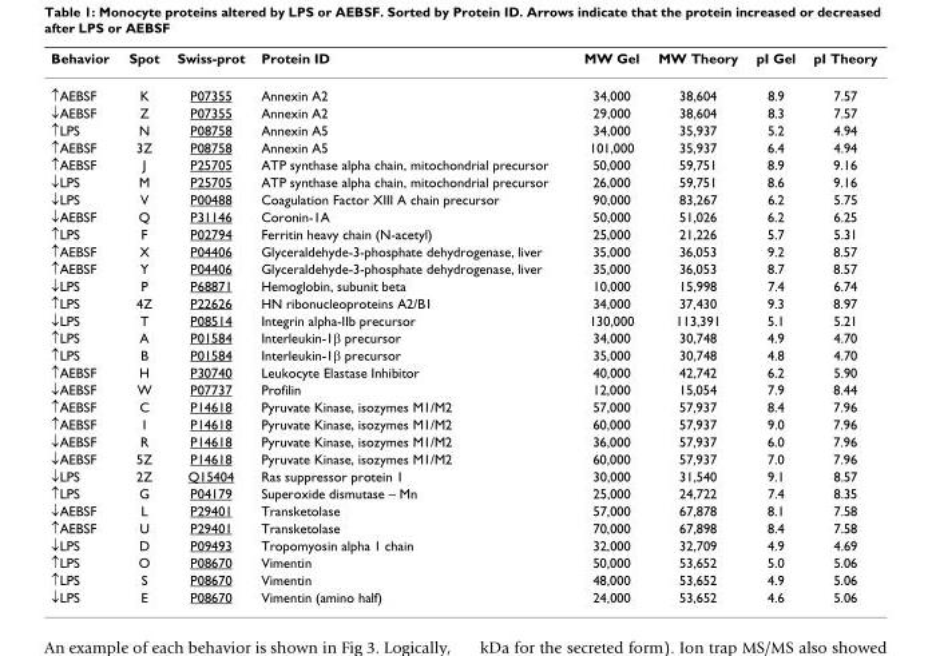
<table><thead><tr><td>Behavior</td><td>Spot</td><td>Swiss-prot</td><td>Protein ID</td><td>MW Gel</td><td>MW Theory</td><td>pI Gel</td><td>pI Theory</td></tr></thead><tbody><tr><td>↑AEBSF</td><td>K</td><td>P07355</td><td>Annexin A2</td><td>34,000</td><td>38,604</td><td>8.9</td><td>7.57</td></tr><tr><td>↓AEBSF</td><td>Z</td><td>P07355</td><td>Annexin A2</td><td>29,000</td><td>38,604</td><td>8.3</td><td>7.57</td></tr><tr><td>↑LPS</td><td>N</td><td>P08758</td><td>Annexin A5</td><td>34,000</td><td>35,937</td><td>5.2</td><td>4.94</td></tr><tr><td>↑AEBSF</td><td>3Z</td><td>P08758</td><td>Annexin A5</td><td>101,000</td><td>35,937</td><td>6.4</td><td>4.94</td></tr><tr><td>↑AEBSF</td><td>J</td><td>P25705</td><td>ATP synthase alpha chain, mitochondrial precursor</td><td>50,000</td><td>59,751</td><td>8.9</td><td>9.16</td></tr><tr><td>↓LPS</td><td>M</td><td>P25705</td><td>ATP synthase alpha chain, mitochondrial precursor</td><td>26,000</td><td>59,751</td><td>8.6</td><td>9.16</td></tr><tr><td>↓LPS</td><td>V</td><td>P00488</td><td>Coagulation Factor XIII A chain precursor</td><td>90,000</td><td>83,267</td><td>6.2</td><td>5.75</td></tr><tr><td>↓AEBSF</td><td>Q</td><td>P31146</td><td>Coronin-1A</td><td>50,000</td><td>51,026</td><td>6.2</td><td>6.25</td></tr><tr><td>↑LPS</td><td>F</td><td>P02794</td><td>Ferritin heavy chain (N-acetyl)</td><td>25,000</td><td>21,226</td><td>5.7</td><td>5.31</td></tr><tr><td>↑AEBSF</td><td>X</td><td>P04406</td><td>Glyceraldehyde-3-phosphate dehydrogenase, liver</td><td>35,000</td><td>36,053</td><td>9.2</td><td>8.57</td></tr><tr><td>↑AEBSF</td><td>Y</td><td>P04406</td><td>Glyceraldehyde-3-phosphate dehydrogenase, liver</td><td>35,000</td><td>36,053</td><td>8.7</td><td>8.57</td></tr><tr><td>↓LPS</td><td>P</td><td>P68871</td><td>Hemoglobin, subunit beta</td><td>10,000</td><td>15,998</td><td>7.4</td><td>6.74</td></tr><tr><td>↑LPS</td><td>4Z</td><td>P22626</td><td>HN ribonucleoproteins A2/B1</td><td>34,000</td><td>37,430</td><td>9.3</td><td>8.97</td></tr><tr><td>↓LPS</td><td>T</td><td>P08514</td><td>Integrin alpha-IIb precursor</td><td>130,000</td><td>113,391</td><td>5.1</td><td>5.21</td></tr><tr><td>↑LPS</td><td>A</td><td>P01584</td><td>Interleukin-1β precursor</td><td>34,000</td><td>30,748</td><td>4.9</td><td>4.70</td></tr><tr><td>↑LPS</td><td>B</td><td>P01584</td><td>Interleukin-1β precursor</td><td>35,000</td><td>30,748</td><td>4.8</td><td>4.70</td></tr><tr><td>↑AEBSF</td><td>H</td><td>P30740</td><td>Leukocyte Elastase Inhibitor</td><td>40,000</td><td>42,742</td><td>6.2</td><td>5.90</td></tr><tr><td>↓AEBSF</td><td>W</td><td>P07737</td><td>Profilin</td><td>12,000</td><td>15,054</td><td>7.9</td><td>8.44</td></tr><tr><td>↑AEBSF</td><td>C</td><td>P14618</td><td>Pyruvate Kinase, isozymes M1/M2</td><td>57,000</td><td>57,937</td><td>8.4</td><td>7.96</td></tr><tr><td>↑AEBSF</td><td>I</td><td>P14618</td><td>Pyruvate Kinase, isozymes M1/M2</td><td>60,000</td><td>57,937</td><td>9.0</td><td>7.96</td></tr><tr><td>↓AEBSF</td><td>R</td><td>P14618</td><td>Pyruvate Kinase, isozymes M1/M2</td><td>36,000</td><td>57,937</td><td>6.0</td><td>7.96</td></tr><tr><td>↓AEBSF</td><td>5Z</td><td>P14618</td><td>Pyruvate Kinase, isozymes M1/M2</td><td>60,000</td><td>57,937</td><td>7.0</td><td>7.96</td></tr><tr><td>↓LPS</td><td>2Z</td><td>Q15404</td><td>Ras suppressor protein 1</td><td>30,000</td><td>31,540</td><td>9.1</td><td>8.57</td></tr><tr><td>↑LPS</td><td>G</td><td>P04179</td><td>Superoxide dismutase – Mn</td><td>25,000</td><td>24,722</td><td>7.4</td><td>8.35</td></tr><tr><td>↓AEBSF</td><td>L</td><td>P29401</td><td>Transketolase</td><td>57,000</td><td>67,878</td><td>8.1</td><td>7.58</td></tr><tr><td>↑AEBSF</td><td>U</td><td>P29401</td><td>Transketolase</td><td>70,000</td><td>67,898</td><td>8.4</td><td>7.58</td></tr><tr><td>↓LPS</td><td>D</td><td>P09493</td><td>Tropomyosin alpha 1 chain</td><td>32,000</td><td>32,709</td><td>4.9</td><td>4.69</td></tr><tr><td>↑LPS</td><td>O</td><td>P08670</td><td>Vimentin</td><td>50,000</td><td>53,652</td><td>5.0</td><td>5.06</td></tr><tr><td>↑LPS</td><td>S</td><td>P08670</td><td>Vimentin</td><td>48,000</td><td>53,652</td><td>4.9</td><td>5.06</td></tr><tr><td>↓LPS</td><td>E</td><td>P08670</td><td>Vimentin (amino half)</td><td>24,000</td><td>53,652</td><td>4.6</td><td>5.06</td></tr></tbody></table>